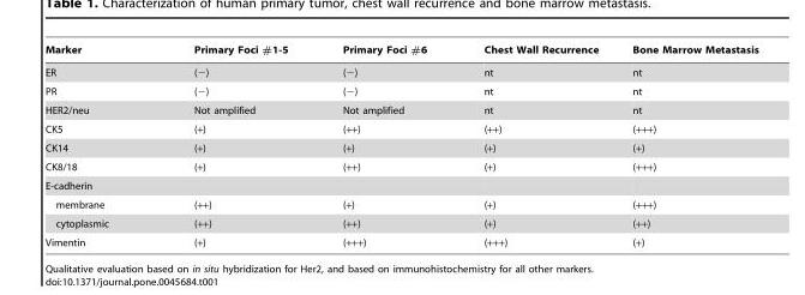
<table><thead><tr><td>Marker</td><td>Primary Foci #1-5</td><td>Primary Foci #6</td><td>Chest Wall Recurrence</td><td>Bone Marrow Metastasis</td></tr></thead><tbody><tr><td>ER</td><td>(−)</td><td>(−)</td><td>nt</td><td>nt</td></tr><tr><td>PR</td><td>(−)</td><td>(−)</td><td>nt</td><td>nt</td></tr><tr><td>HER2/neu</td><td>Not amplified</td><td>Not amplified</td><td>nt</td><td>nt</td></tr><tr><td>CK5</td><td>(+)</td><td>(++)</td><td>(++)</td><td>(+++)</td></tr><tr><td>CK14</td><td>(+)</td><td>(+)</td><td>(+)</td><td>(+)</td></tr><tr><td>CK8/18</td><td>(+)</td><td>(++)</td><td>(+)</td><td>(+++)</td></tr><tr><td colspan="5">E-cadherin</td></tr><tr><td>membrane</td><td>(++)</td><td>(+)</td><td>(+)</td><td>(+++)</td></tr><tr><td>cytoplasmic</td><td>(++)</td><td>(++)</td><td>(+)</td><td>(++)</td></tr><tr><td>Vimentin</td><td>(+)</td><td>(+++)</td><td>(+++)</td><td>(+)</td></tr></tbody></table>